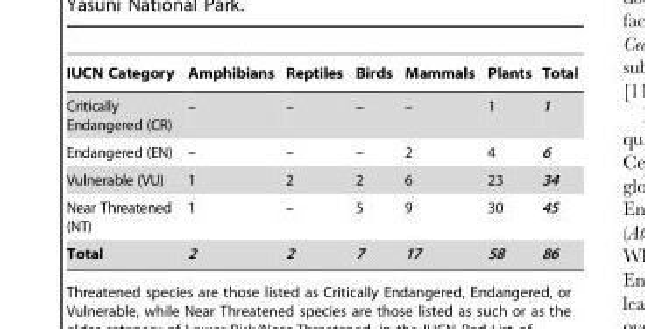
<table><thead><tr><td>IUCN Category</td><td>Amphibians</td><td>Reptiles</td><td>Birds</td><td>Mammals</td><td>Plants</td><td>Total</td></tr></thead><tbody><tr><td>Critically Endangered (CR)</td><td>–</td><td>–</td><td>–</td><td>–</td><td>1</td><td>1</td></tr><tr><td>Endangered (EN)</td><td>–</td><td>–</td><td>–</td><td>2</td><td>4</td><td>6</td></tr><tr><td>Vulnerable (VU)</td><td>1</td><td>2</td><td>2</td><td>6</td><td>23</td><td>34</td></tr><tr><td>Near Threatened (NT)</td><td>1</td><td>–</td><td>5</td><td>9</td><td>30</td><td>45</td></tr><tr><td>Total</td><td>2</td><td>2</td><td>7</td><td>17</td><td>58</td><td>86</td></tr></tbody></table>